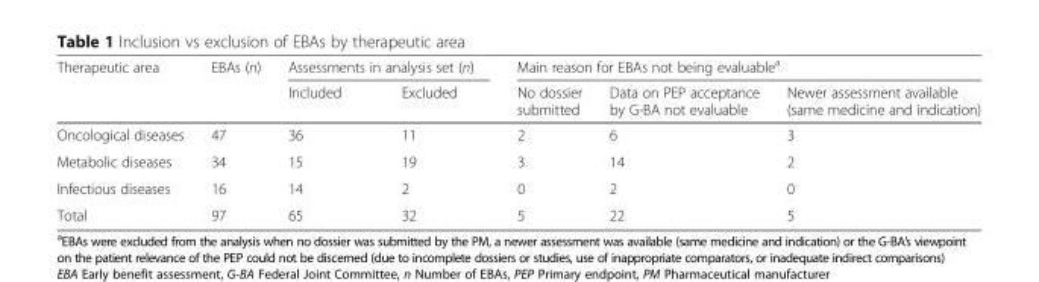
<table><thead><tr><td rowspan="2">Therapeutic area</td><td rowspan="2">EBAs (n)</td><td colspan="2">Assessments in analysis set (n)</td><td colspan="3">Main reason for EBAs not being evaluable<sup>a</sup></td></tr><tr><td>Included</td><td>Excluded</td><td>No dossier submitted</td><td>Data on PEP acceptance by G-BA not evaluable</td><td>Newer assessment available (same medicine and indication)</td></tr></thead><tbody><tr><td>Oncological diseases</td><td>47</td><td>36</td><td>11</td><td>2</td><td>6</td><td>3</td></tr><tr><td>Metabolic diseases</td><td>34</td><td>15</td><td>19</td><td>3</td><td>14</td><td>2</td></tr><tr><td>Infectious diseases</td><td>16</td><td>14</td><td>2</td><td>0</td><td>2</td><td>0</td></tr><tr><td>Total</td><td>97</td><td>65</td><td>32</td><td>5</td><td>22</td><td>5</td></tr></tbody></table>